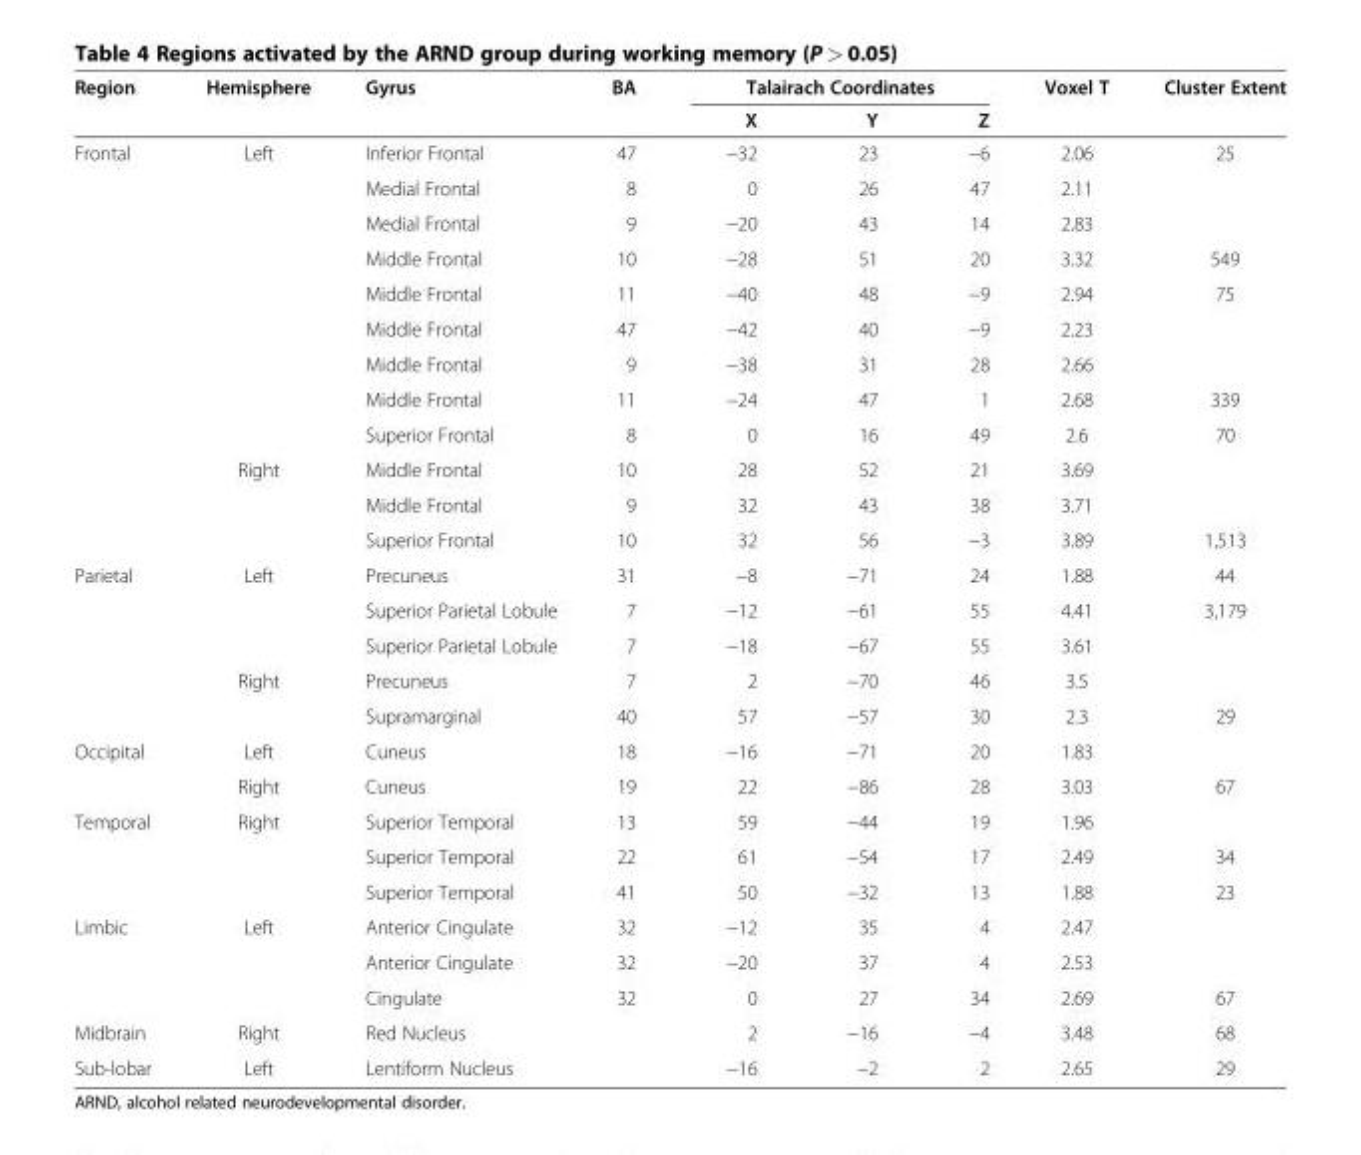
<table><thead><tr><td rowspan="2">Region</td><td rowspan="2">Hemisphere</td><td rowspan="2">Gyrus</td><td rowspan="2">BA</td><td colspan="3">Talairach Coordinates</td><td rowspan="2">Voxel T</td><td rowspan="2">Cluster Extent</td></tr><tr><td>X</td><td>Y</td><td>Z</td></tr></thead><tbody><tr><td rowspan="12">Frontal</td><td>Left</td><td>Inferior Frontal</td><td>47</td><td>−32</td><td>23</td><td>−6</td><td>2.06</td><td>25</td></tr><tr><td></td><td>Medial Frontal</td><td>8</td><td>0</td><td>26</td><td>47</td><td>2.11</td><td></td></tr><tr><td></td><td>Medial Frontal</td><td>9</td><td>−20</td><td>43</td><td>14</td><td>2.83</td><td></td></tr><tr><td></td><td>Middle Frontal</td><td>10</td><td>−28</td><td>51</td><td>20</td><td>3.32</td><td>549</td></tr><tr><td></td><td>Middle Frontal</td><td>11</td><td>−40</td><td>48</td><td>−9</td><td>2.94</td><td>75</td></tr><tr><td></td><td>Middle Frontal</td><td>47</td><td>−42</td><td>40</td><td>−9</td><td>2.23</td><td></td></tr><tr><td></td><td>Middle Frontal</td><td>9</td><td>−38</td><td>31</td><td>28</td><td>2.66</td><td></td></tr><tr><td></td><td>Middle Frontal</td><td>11</td><td>−24</td><td>47</td><td>1</td><td>2.68</td><td>339</td></tr><tr><td></td><td>Superior Frontal</td><td>8</td><td>0</td><td>16</td><td>49</td><td>2.6</td><td>70</td></tr><tr><td>Right</td><td>Middle Frontal</td><td>10</td><td>28</td><td>52</td><td>21</td><td>3.69</td><td></td></tr><tr><td></td><td>Middle Frontal</td><td>9</td><td>32</td><td>43</td><td>38</td><td>3.71</td><td></td></tr><tr><td></td><td>Superior Frontal</td><td>10</td><td>32</td><td>56</td><td>−3</td><td>3.89</td><td>1,513</td></tr><tr><td rowspan="5">Parietal</td><td>Left</td><td>Precuneus</td><td>31</td><td>−8</td><td>−71</td><td>24</td><td>1.88</td><td>44</td></tr><tr><td></td><td>Superior Parietal Lobule</td><td>7</td><td>−12</td><td>−61</td><td>55</td><td>4.41</td><td>3,179</td></tr><tr><td></td><td>Superior Parietal Lobule</td><td>7</td><td>−18</td><td>−67</td><td>55</td><td>3.61</td><td></td></tr><tr><td>Right</td><td>Precuneus</td><td>7</td><td>2</td><td>−70</td><td>46</td><td>3.5</td><td></td></tr><tr><td></td><td>Supramarginal</td><td>40</td><td>57</td><td>−57</td><td>30</td><td>2.3</td><td>29</td></tr><tr><td rowspan="2">Occipital</td><td>Left</td><td>Cuneus</td><td>18</td><td>−16</td><td>−71</td><td>20</td><td>1.83</td><td></td></tr><tr><td>Right</td><td>Cuneus</td><td>19</td><td>22</td><td>−86</td><td>28</td><td>3.03</td><td>67</td></tr><tr><td rowspan="3">Temporal</td><td>Right</td><td>Superior Temporal</td><td>13</td><td>59</td><td>−44</td><td>19</td><td>1.96</td><td></td></tr><tr><td></td><td>Superior Temporal</td><td>22</td><td>61</td><td>−54</td><td>17</td><td>2.49</td><td>34</td></tr><tr><td></td><td>Superior Temporal</td><td>41</td><td>50</td><td>−32</td><td>13</td><td>1.88</td><td>23</td></tr><tr><td rowspan="3">Limbic</td><td>Left</td><td>Anterior Cingulate</td><td>32</td><td>−12</td><td>35</td><td>4</td><td>2.47</td><td></td></tr><tr><td></td><td>Anterior Cingulate</td><td>32</td><td>−20</td><td>37</td><td>4</td><td>2.53</td><td></td></tr><tr><td></td><td>Cingulate</td><td>32</td><td>0</td><td>27</td><td>34</td><td>2.69</td><td>67</td></tr><tr><td>Midbrain</td><td>Right</td><td>Red Nucleus</td><td></td><td>2</td><td>−16</td><td>−4</td><td>3.48</td><td>68</td></tr><tr><td>Sub-lobar</td><td>Left</td><td>Lentiform Nucleus</td><td></td><td>−16</td><td>−2</td><td>2</td><td>2.65</td><td>29</td></tr></tbody></table>